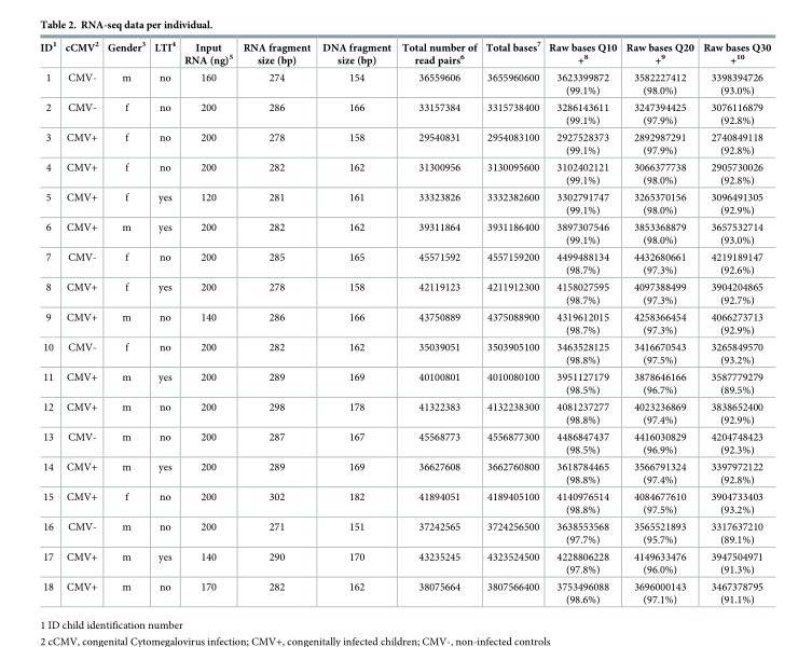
<table><thead><tr><td>ID<sup>1</sup></td><td>cCMV<sup>2</sup></td><td>Gender<sup>3</sup></td><td>LTI<sup>4</sup></td><td>Input RNA (ng)<sup>5</sup></td><td>RNA fragment size (bp)</td><td>DNA fragment size (bp)</td><td>Total number of read pairs<sup>6</sup></td><td>Total bases<sup>7</sup></td><td>Raw bases Q10 +<sup>8</sup></td><td>Raw bases Q20 +<sup>9</sup></td><td>Raw bases Q30 +<sup>10</sup></td></tr></thead><tbody><tr><td>1</td><td>CMV-</td><td>m</td><td>no</td><td>160</td><td>274</td><td>154</td><td>36559606</td><td>3655960600</td><td>3623399872 (99.1%)</td><td>3582227412 (98.0%)</td><td>3398394726 (93.0%)</td></tr><tr><td>2</td><td>CMV-</td><td>f</td><td>no</td><td>200</td><td>286</td><td>166</td><td>33157384</td><td>3315738400</td><td>3286143611 (99.1%)</td><td>3247394425 (97.9%)</td><td>3076116879 (92.8%)</td></tr><tr><td>3</td><td>CMV+</td><td>f</td><td>no</td><td>200</td><td>278</td><td>158</td><td>29540831</td><td>2954083100</td><td>2927528373 (99.1%)</td><td>2892987291 (97.9%)</td><td>2740849118 (92.8%)</td></tr><tr><td>4</td><td>CMV+</td><td>f</td><td>no</td><td>200</td><td>282</td><td>162</td><td>31300956</td><td>3130095600</td><td>3102402121 (99.1%)</td><td>3066377738 (98.0%)</td><td>2905730026 (92.8%)</td></tr><tr><td>5</td><td>CMV+</td><td>f</td><td>yes</td><td>120</td><td>281</td><td>161</td><td>33323826</td><td>3332382600</td><td>3302791747 (99.1%)</td><td>3265370156 (98.0%)</td><td>3096491305 (92.9%)</td></tr><tr><td>6</td><td>CMV+</td><td>m</td><td>yes</td><td>200</td><td>282</td><td>162</td><td>39311864</td><td>3931186400</td><td>3897307546 (99.1%)</td><td>3853368879 (98.0%)</td><td>3657532714 (93.0%)</td></tr><tr><td>7</td><td>CMV-</td><td>f</td><td>no</td><td>200</td><td>285</td><td>165</td><td>45571592</td><td>4557159200</td><td>4499488134 (98.7%)</td><td>4432680661 (97.3%)</td><td>4219189147 (92.6%)</td></tr><tr><td>8</td><td>CMV+</td><td>f</td><td>yes</td><td>200</td><td>278</td><td>158</td><td>42119123</td><td>4211912300</td><td>4158027595 (98.7%)</td><td>4097388499 (97.3%)</td><td>3904204865 (92.7%)</td></tr><tr><td>9</td><td>CMV+</td><td>m</td><td>no</td><td>140</td><td>286</td><td>166</td><td>43750889</td><td>4375088900</td><td>4319612015 (98.7%)</td><td>4258366454 (97.3%)</td><td>4066273713 (92.9%)</td></tr><tr><td>10</td><td>CMV-</td><td>f</td><td>no</td><td>200</td><td>282</td><td>162</td><td>35039051</td><td>3503905100</td><td>3463528125 (98.8%)</td><td>3416670543 (97.5%)</td><td>3265849570 (93.2%)</td></tr><tr><td>11</td><td>CMV+</td><td>m</td><td>yes</td><td>200</td><td>289</td><td>169</td><td>40100801</td><td>4010080100</td><td>3951127179 (98.5%)</td><td>3878646166 (96.7%)</td><td>3587779279 (89.5%)</td></tr><tr><td>12</td><td>CMV+</td><td>m</td><td>no</td><td>200</td><td>298</td><td>178</td><td>41322383</td><td>4132238300</td><td>4081237277 (98.8%)</td><td>4023236869 (97.4%)</td><td>3838652400 (92.9%)</td></tr><tr><td>13</td><td>CMV-</td><td>m</td><td>no</td><td>200</td><td>287</td><td>167</td><td>45568773</td><td>4556877300</td><td>4486847437 (98.5%)</td><td>4416030829 (96.9%)</td><td>4204748423 (92.3%)</td></tr><tr><td>14</td><td>CMV+</td><td>m</td><td>yes</td><td>200</td><td>289</td><td>169</td><td>36627608</td><td>3662760800</td><td>3618784465 (98.8%)</td><td>3566791324 (97.4%)</td><td>3397972122 (92.8%)</td></tr><tr><td>15</td><td>CMV+</td><td>f</td><td>no</td><td>200</td><td>302</td><td>182</td><td>41894051</td><td>4189405100</td><td>4140976514 (98.8%)</td><td>4084677610 (97.5%)</td><td>3904733403 (93.2%)</td></tr><tr><td>16</td><td>CMV-</td><td>m</td><td>no</td><td>200</td><td>271</td><td>151</td><td>37242565</td><td>3724256500</td><td>3638553568 (97.7%)</td><td>3565521893 (95.7%)</td><td>3317637210 (89.1%)</td></tr><tr><td>17</td><td>CMV+</td><td>m</td><td>yes</td><td>140</td><td>290</td><td>170</td><td>43235245</td><td>4323524500</td><td>4228806228 (97.8%)</td><td>4149633476 (96.0%)</td><td>3947504971 (91.3%)</td></tr><tr><td>18</td><td>CMV+</td><td>m</td><td>no</td><td>170</td><td>282</td><td>162</td><td>38075664</td><td>3807566400</td><td>3753496088 (98.6%)</td><td>3696000143 (97.1%)</td><td>3467378795 (91.1%)</td></tr></tbody></table>